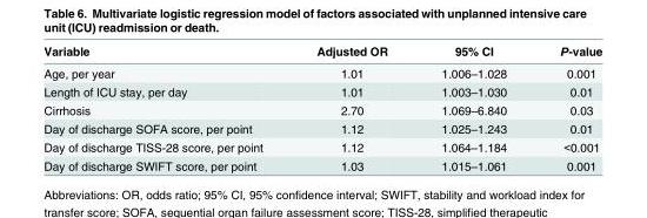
<table><thead><tr><td>Variable</td><td>Adjusted OR</td><td>95% CI</td><td>P-value</td></tr></thead><tbody><tr><td>Age, per year</td><td>1.01</td><td>1.006–1.028</td><td>0.001</td></tr><tr><td>Length of ICU stay, per day</td><td>1.01</td><td>1.003–1.030</td><td>0.01</td></tr><tr><td>Cirrhosis</td><td>2.70</td><td>1.069–6.840</td><td>0.03</td></tr><tr><td>Day of discharge SOFA score, per point</td><td>1.12</td><td>1.025–1.243</td><td>0.01</td></tr><tr><td>Day of discharge TISS-28 score, per point</td><td>1.12</td><td>1.064–1.184</td><td>&lt;0.001</td></tr><tr><td>Day of discharge SWIFT score, per point</td><td>1.03</td><td>1.015–1.061</td><td>0.001</td></tr></tbody></table>